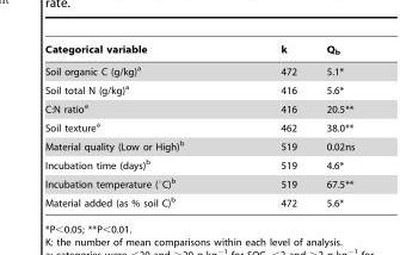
<table><thead><tr><td>Categorical variable</td><td>k</td><td>Q<sub>b</sub></td></tr></thead><tbody><tr><td>Soil organic C (g/kg)<sup>a</sup></td><td>472</td><td>5.1*</td></tr><tr><td>Soil total N (g/kg)<sup>a</sup></td><td>416</td><td>5.6*</td></tr><tr><td>C:N ratio<sup>a</sup></td><td>416</td><td>20.5**</td></tr><tr><td>Soil texture<sup>a</sup></td><td>462</td><td>38.0**</td></tr><tr><td>Material quality (Low or High)<sup>b</sup></td><td>519</td><td>0.02ns</td></tr><tr><td>Incubation time (days)<sup>b</sup></td><td>519</td><td>4.6*</td></tr><tr><td>Incubation temperature (°C)<sup>b</sup></td><td>519</td><td>67.5**</td></tr><tr><td>Material added (as % soil C)<sup>b</sup></td><td>472</td><td>5.6*</td></tr></tbody></table>